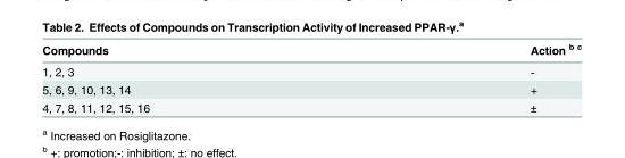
<table><thead><tr><td>Compounds</td><td>Action <sup>b c</sup></td></tr></thead><tbody><tr><td>1, 2, 3</td><td>-</td></tr><tr><td>5, 6, 9, 10, 13, 14</td><td>+</td></tr><tr><td>4, 7, 8, 11, 12, 15, 16</td><td>±</td></tr></tbody></table>